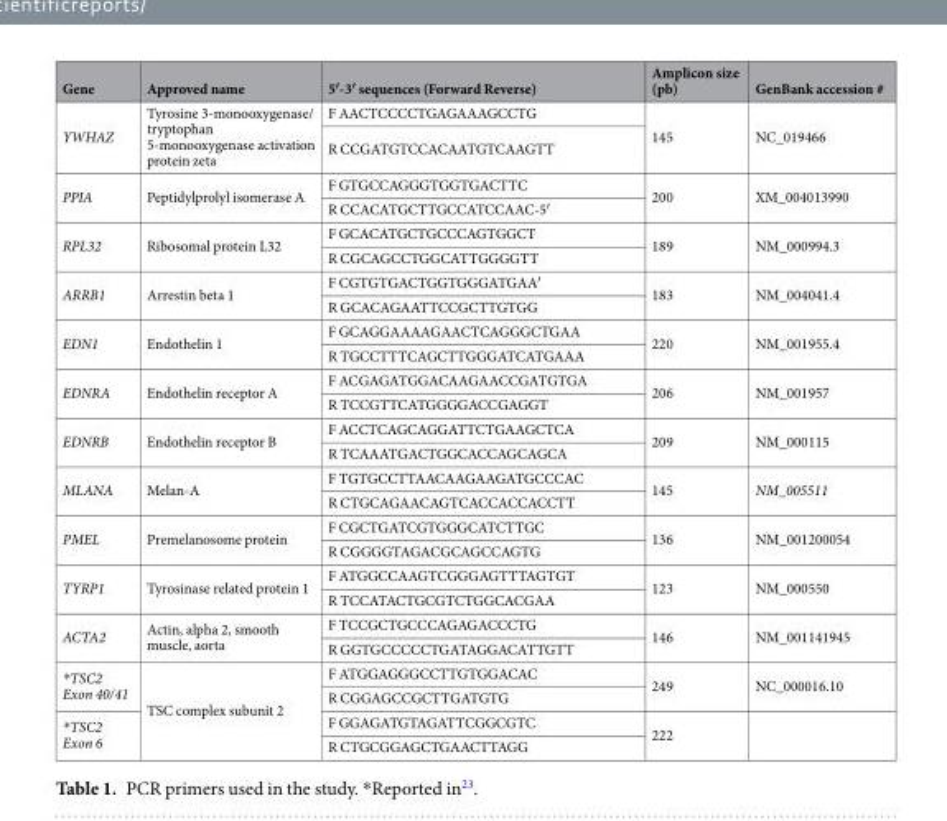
<table><thead><tr><td>Gene</td><td>Approved name</td><td>5′-3′ sequences (Forward Reverse)</td><td>Amplicon size (pb)</td><td>GenBank accession #</td></tr></thead><tbody><tr><td rowspan="2">YWHAZ</td><td rowspan="2">Tyrosine 3-monooxygenase/ tryptophan 5-monooxygenase activation protein zeta</td><td>F AACTCCCCTGAGAAAGCCTG</td><td rowspan="2">145</td><td rowspan="2">NC_019466</td></tr><tr><td>R CCGATGTCCACAATGTCAAGTT</td></tr><tr><td rowspan="2">PPIA</td><td rowspan="2">Peptidylprolyl isomerase A</td><td>F GTGCCAGGGTGGTGACTTC</td><td rowspan="2">200</td><td rowspan="2">XM_004013990</td></tr><tr><td>R CCACATGCTTGCCATCCAAC-5′</td></tr><tr><td rowspan="2">RPL32</td><td rowspan="2">Ribosomal protein L32</td><td>F GCACATGCTGCCCAGTGGCT</td><td rowspan="2">189</td><td rowspan="2">NM_000994.3</td></tr><tr><td>R CGCAGCCTGGCATTGGGGTT</td></tr><tr><td rowspan="2">ARRB1</td><td rowspan="2">Arrestin beta 1</td><td>F CGTGTGACTGGTGGGATGAA′</td><td rowspan="2">183</td><td rowspan="2">NM_004041.4</td></tr><tr><td>R GCACAGAATTCCGCTTGTGG</td></tr><tr><td rowspan="2">EDN1</td><td rowspan="2">Endothelin 1</td><td>F GCAGGAAAAGAACTCAGGGCTGAA</td><td rowspan="2">220</td><td rowspan="2">NM_001955.4</td></tr><tr><td>R TGCCTTTCAGCTTGGGATCATGAAA</td></tr><tr><td rowspan="2">EDNRA</td><td rowspan="2">Endothelin receptor A</td><td>F ACGAGATGGACAAGAACCGATGTGA</td><td rowspan="2">206</td><td rowspan="2">NM_001957</td></tr><tr><td>R TCCGTTCATGGGGACCGAGGT</td></tr><tr><td rowspan="2">EDNRB</td><td rowspan="2">Endothelin receptor B</td><td>F ACCTCAGCAGGATTCTGAAGCTCA</td><td rowspan="2">209</td><td rowspan="2">NM_000115</td></tr><tr><td>R TCAAATGACTGGCACCAGCAGCA</td></tr><tr><td rowspan="2">MLANA</td><td rowspan="2">Melan-A</td><td>F TGTGCCTTAACAAGAAGATGCCCAC</td><td rowspan="2">145</td><td rowspan="2">NM_005511</td></tr><tr><td>R CTGCAGAACAGTCACCACCACCTT</td></tr><tr><td rowspan="2">PMEL</td><td rowspan="2">Premelanosome protein</td><td>F CGCTGATCGTGGGCATCTTGC</td><td rowspan="2">136</td><td rowspan="2">NM_001200054</td></tr><tr><td>R CGGGGTAGACGCAGCCAGTG</td></tr><tr><td rowspan="2">TYRP1</td><td rowspan="2">Tyrosinase related protein 1</td><td>F ATGGCCAAGTCGGGAGTTTAGTGT</td><td rowspan="2">123</td><td rowspan="2">NM_000550</td></tr><tr><td>R TCCATACTGCGTCTGGCACGAA</td></tr><tr><td rowspan="2">ACTA2</td><td rowspan="2">Actin, alpha 2, smooth muscle, aorta</td><td>F TCCGCTGCCCAGAGACCCTG</td><td rowspan="2">146</td><td rowspan="2">NM_001141945</td></tr><tr><td>R GGTGCCCCCTGATAGGACATTGTT</td></tr><tr><td rowspan="2">*TSC2 Exon 40/41</td><td rowspan="4">TSC complex subunit 2</td><td>F ATGGAGGGCCTTGTGGACAC</td><td rowspan="2">249</td><td rowspan="2">NC_000016.10</td></tr><tr><td>R CGGAGCCGCTTGATGTG</td></tr><tr><td rowspan="2">*TSC2 Exon 6</td><td>F GGAGATGTAGATTCGGCGTC</td><td rowspan="2">222</td><td rowspan="2"></td></tr><tr><td>R CTGCGGAGCTGAACTTAGG</td></tr></tbody></table>